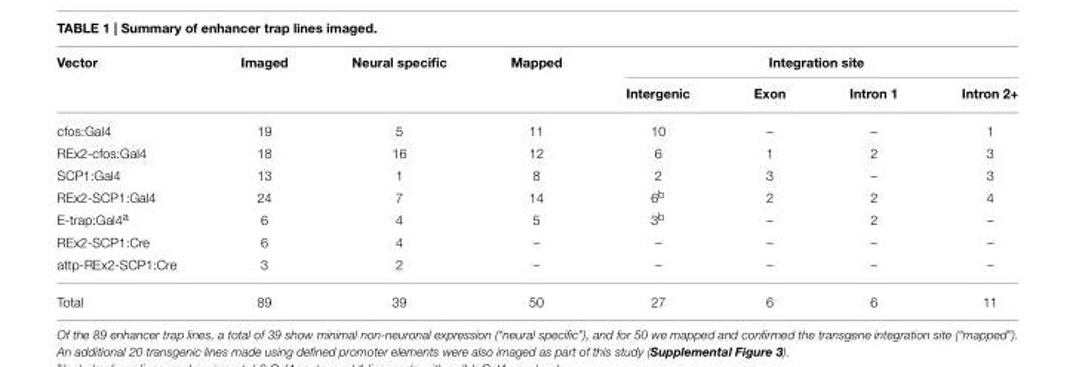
<table><thead><tr><td rowspan="2">Vector</td><td rowspan="2">Imaged</td><td rowspan="2">Neural specific</td><td rowspan="2">Mapped</td><td colspan="4">Integration site</td></tr><tr><td>Intergenic</td><td>Exon</td><td>Intron 1</td><td>Intron 2+</td></tr></thead><tbody><tr><td>cfos:Gal4</td><td>19</td><td>5</td><td>11</td><td>10</td><td>–</td><td>–</td><td>1</td></tr><tr><td>REx2-cfos:Gal4</td><td>18</td><td>16</td><td>12</td><td>6</td><td>1</td><td>2</td><td>3</td></tr><tr><td>SCP1:Gal4</td><td>13</td><td>1</td><td>8</td><td>2</td><td>3</td><td>–</td><td>3</td></tr><tr><td>REx2-SCP1:Gal4</td><td>24</td><td>7</td><td>14</td><td>6<sup>b</sup></td><td>2</td><td>2</td><td>4</td></tr><tr><td>E-trap:Gal4<sup>a</sup></td><td>6</td><td>4</td><td>5</td><td>3<sup>b</sup></td><td>–</td><td>2</td><td>–</td></tr><tr><td>REx2-SCP1:Cre</td><td>6</td><td>4</td><td>–</td><td>–</td><td>–</td><td>–</td><td>–</td></tr><tr><td>attp-REx2-SCP1:Cre</td><td>3</td><td>2</td><td>–</td><td>–</td><td>–</td><td>–</td><td>–</td></tr><tr><td>Total</td><td>89</td><td>39</td><td>50</td><td>27</td><td>6</td><td>6</td><td>11</td></tr></tbody></table>